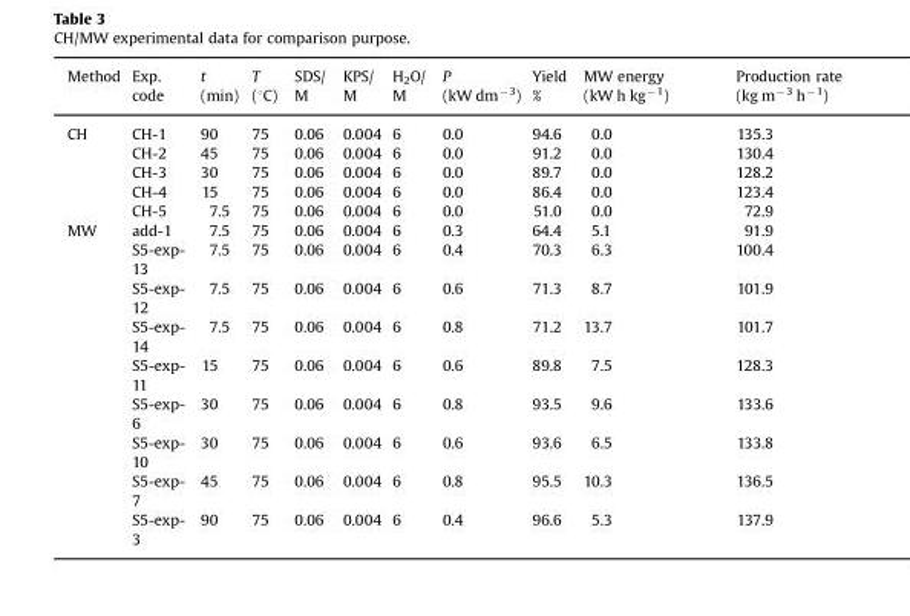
<table><thead><tr><td>Method</td><td>Exp. code</td><td>t (min)</td><td>T (°C)</td><td>SDS/ M</td><td>KPS/ M</td><td>H<sub>2</sub>O/ M</td><td>P (kW dm<sup>−3</sup>)</td><td>Yield %</td><td>MW energy (kW h kg<sup>−1</sup>)</td><td>Production rate (kg m<sup>−3</sup> h<sup>−1</sup>)</td></tr></thead><tbody><tr><td rowspan="5">CH</td><td>CH-1</td><td>90</td><td>75</td><td>0.06</td><td>0.004</td><td>6</td><td>0.0</td><td>94.6</td><td>0.0</td><td>135.3</td></tr><tr><td>CH-2</td><td>45</td><td>75</td><td>0.06</td><td>0.004</td><td>6</td><td>0.0</td><td>91.2</td><td>0.0</td><td>130.4</td></tr><tr><td>CH-3</td><td>30</td><td>75</td><td>0.06</td><td>0.004</td><td>6</td><td>0.0</td><td>89.7</td><td>0.0</td><td>128.2</td></tr><tr><td>CH-4</td><td>15</td><td>75</td><td>0.06</td><td>0.004</td><td>6</td><td>0.0</td><td>86.4</td><td>0.0</td><td>123.4</td></tr><tr><td>CH-5</td><td>7.5</td><td>75</td><td>0.06</td><td>0.004</td><td>6</td><td>0.0</td><td>51.0</td><td>0.0</td><td>72.9</td></tr><tr><td rowspan="9">MW</td><td>add-1</td><td>7.5</td><td>75</td><td>0.06</td><td>0.004</td><td>6</td><td>0.3</td><td>64.4</td><td>5.1</td><td>91.9</td></tr><tr><td>S5-exp- 13</td><td>7.5</td><td>75</td><td>0.06</td><td>0.004</td><td>6</td><td>0.4</td><td>70.3</td><td>6.3</td><td>100.4</td></tr><tr><td>S5-exp- 12</td><td>7.5</td><td>75</td><td>0.06</td><td>0.004</td><td>6</td><td>0.6</td><td>71.3</td><td>8.7</td><td>101.9</td></tr><tr><td>S5-exp- 14</td><td>7.5</td><td>75</td><td>0.06</td><td>0.004</td><td>6</td><td>0.8</td><td>71.2</td><td>13.7</td><td>101.7</td></tr><tr><td>S5-exp- 11</td><td>15</td><td>75</td><td>0.06</td><td>0.004</td><td>6</td><td>0.6</td><td>89.8</td><td>7.5</td><td>128.3</td></tr><tr><td>S5-exp- 6</td><td>30</td><td>75</td><td>0.06</td><td>0.004</td><td>6</td><td>0.8</td><td>93.5</td><td>9.6</td><td>133.6</td></tr><tr><td>S5-exp- 10</td><td>30</td><td>75</td><td>0.06</td><td>0.004</td><td>6</td><td>0.6</td><td>93.6</td><td>6.5</td><td>133.8</td></tr><tr><td>S5-exp- 7</td><td>45</td><td>75</td><td>0.06</td><td>0.004</td><td>6</td><td>0.8</td><td>95.5</td><td>10.3</td><td>136.5</td></tr><tr><td>S5-exp- 3</td><td>90</td><td>75</td><td>0.06</td><td>0.004</td><td>6</td><td>0.4</td><td>96.6</td><td>5.3</td><td>137.9</td></tr></tbody></table>